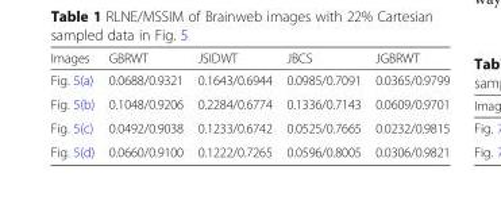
<table><thead><tr><td>Images</td><td>GBRWT</td><td>JSIDWT</td><td>JBCS</td><td>JGBRWT</td></tr></thead><tbody><tr><td>Fig. 5(a)</td><td>0.0688/0.9321</td><td>0.1643/0.6944</td><td>0.0985/0.7091</td><td>0.0365/0.9799</td></tr><tr><td>Fig. 5(b)</td><td>0.1048/0.9206</td><td>0.2284/0.6774</td><td>0.1336/0.7143</td><td>0.0609/0.9701</td></tr><tr><td>Fig. 5(c)</td><td>0.0492/0.9038</td><td>0.1233/0.6742</td><td>0.0525/0.7665</td><td>0.0232/0.9815</td></tr><tr><td>Fig. 5(d)</td><td>0.0660/0.9100</td><td>0.1222/0.7265</td><td>0.0596/0.8005</td><td>0.0306/0.9821</td></tr></tbody></table>